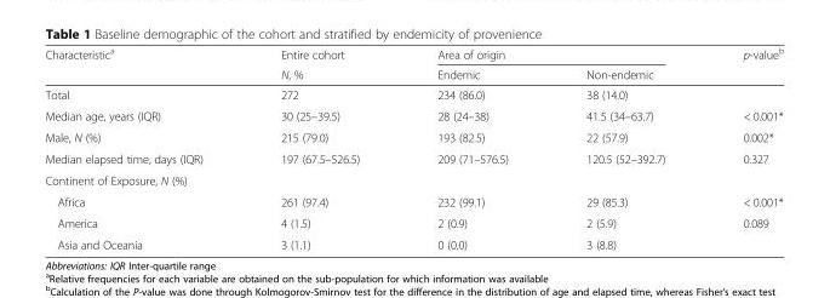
<table><thead><tr><td rowspan="2">Characteristic<sup>a</sup></td><td rowspan="2">Entire cohort N, %</td><td colspan="2">Area of origin</td><td rowspan="2">p-value<sup>b</sup></td></tr><tr><td>Endemic</td><td>Non-endemic</td></tr></thead><tbody><tr><td>Total</td><td>272</td><td>234 (86.0)</td><td>38 (14.0)</td><td></td></tr><tr><td>Median age, years (IQR)</td><td>30 (25–39.5)</td><td>28 (24–38)</td><td>41.5 (34–63.7)</td><td>&lt; 0.001*</td></tr><tr><td>Male, N (%)</td><td>215 (79.0)</td><td>193 (82.5)</td><td>22 (57.9)</td><td>0.002*</td></tr><tr><td>Median elapsed time, days (IQR)</td><td>197 (67.5–526.5)</td><td>209 (71–576.5)</td><td>120.5 (52–392.7)</td><td>0.327</td></tr><tr><td colspan="5">Continent of Exposure, N (%)</td></tr><tr><td>Africa</td><td>261 (97.4)</td><td>232 (99.1)</td><td>29 (85.3)</td><td>&lt; 0.001*</td></tr><tr><td>America</td><td>4 (1.5)</td><td>2 (0.9)</td><td>2 (5.9)</td><td>0.089</td></tr><tr><td>Asia and Oceania</td><td>3 (1.1)</td><td>0 (0.0)</td><td>3 (8.8)</td><td></td></tr></tbody></table>